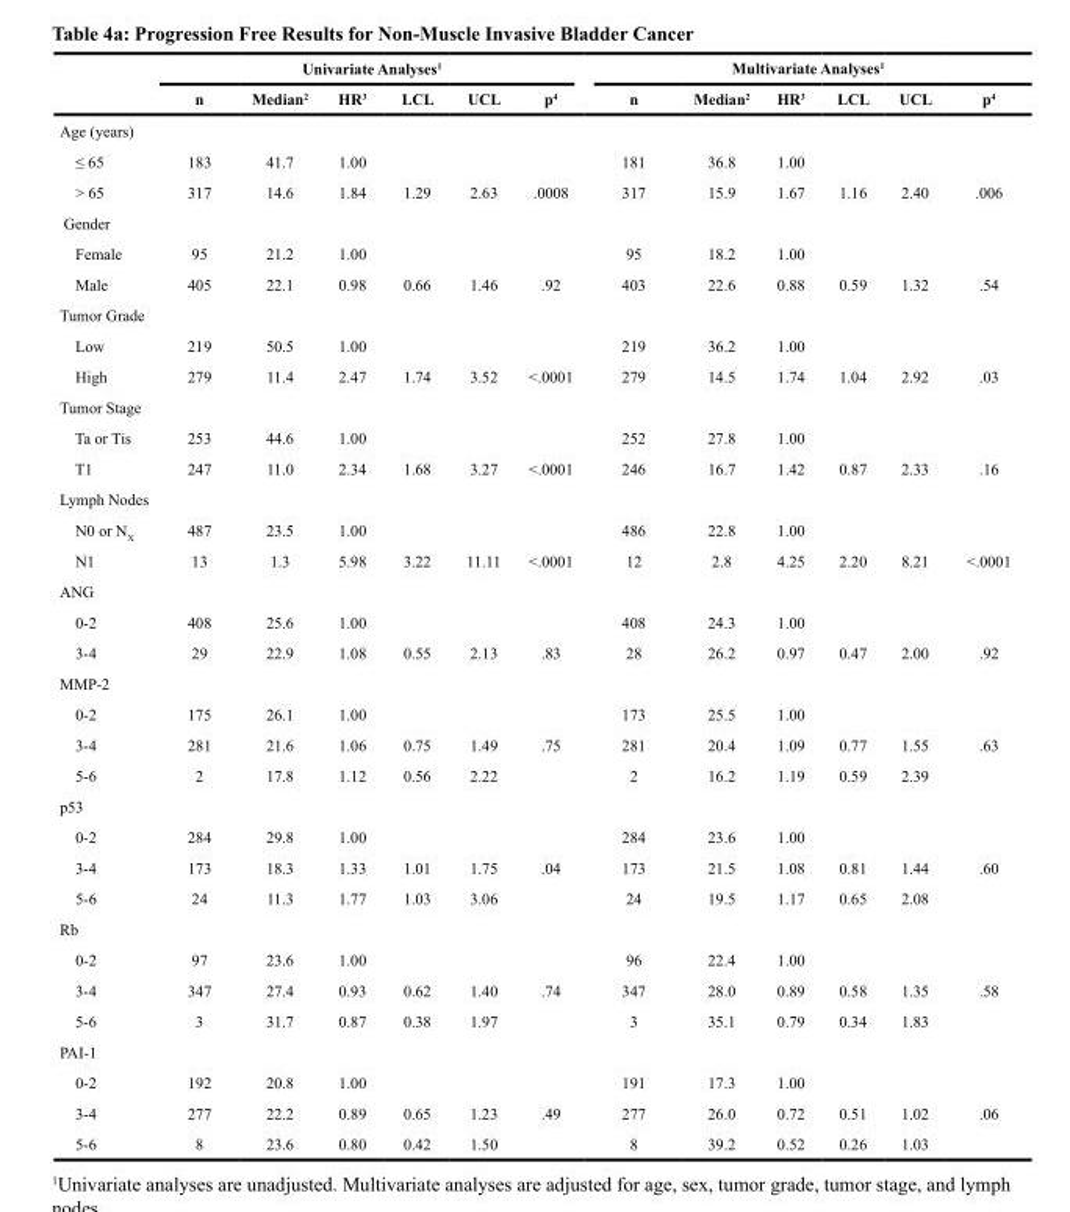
<table><thead><tr><td rowspan="2"></td><td colspan="6">Univariate Analyses<sup>1</sup></td><td colspan="6">Multivariate Analyses<sup>1</sup></td></tr><tr><td>n</td><td>Median<sup>2</sup></td><td>HR<sup>3</sup></td><td>LCL</td><td>UCL</td><td>p<sup>4</sup></td><td>n</td><td>Median<sup>2</sup></td><td>HR<sup>3</sup></td><td>LCL</td><td>UCL</td><td>p<sup>4</sup></td></tr></thead><tbody><tr><td colspan="13">Age (years)</td></tr><tr><td>≤ 65</td><td>183</td><td>41.7</td><td>1.00</td><td></td><td></td><td></td><td>181</td><td>36.8</td><td>1.00</td><td></td><td></td><td></td></tr><tr><td>&gt; 65</td><td>317</td><td>14.6</td><td>1.84</td><td>1.29</td><td>2.63</td><td>.0008</td><td>317</td><td>15.9</td><td>1.67</td><td>1.16</td><td>2.40</td><td>.006</td></tr><tr><td colspan="13">Gender</td></tr><tr><td>Female</td><td>95</td><td>21.2</td><td>1.00</td><td></td><td></td><td></td><td>95</td><td>18.2</td><td>1.00</td><td></td><td></td><td></td></tr><tr><td>Male</td><td>405</td><td>22.1</td><td>0.98</td><td>0.66</td><td>1.46</td><td>.92</td><td>403</td><td>22.6</td><td>0.88</td><td>0.59</td><td>1.32</td><td>.54</td></tr><tr><td colspan="13">Tumor Grade</td></tr><tr><td>Low</td><td>219</td><td>50.5</td><td>1.00</td><td></td><td></td><td></td><td>219</td><td>36.2</td><td>1.00</td><td></td><td></td><td></td></tr><tr><td>High</td><td>279</td><td>11.4</td><td>2.47</td><td>1.74</td><td>3.52</td><td>&lt;.0001</td><td>279</td><td>14.5</td><td>1.74</td><td>1.04</td><td>2.92</td><td>.03</td></tr><tr><td colspan="13">Tumor Stage</td></tr><tr><td>Ta or Tis</td><td>253</td><td>44.6</td><td>1.00</td><td></td><td></td><td></td><td>252</td><td>27.8</td><td>1.00</td><td></td><td></td><td></td></tr><tr><td>T1</td><td>247</td><td>11.0</td><td>2.34</td><td>1.68</td><td>3.27</td><td>&lt;.0001</td><td>246</td><td>16.7</td><td>1.42</td><td>0.87</td><td>2.33</td><td>.16</td></tr><tr><td colspan="13">Lymph Nodes</td></tr><tr><td>N0 or N<sub>X</sub></td><td>487</td><td>23.5</td><td>1.00</td><td></td><td></td><td></td><td>486</td><td>22.8</td><td>1.00</td><td></td><td></td><td></td></tr><tr><td>N1</td><td>13</td><td>1.3</td><td>5.98</td><td>3.22</td><td>11.11</td><td>&lt;.0001</td><td>12</td><td>2.8</td><td>4.25</td><td>2.20</td><td>8.21</td><td>&lt;.0001</td></tr><tr><td colspan="13">ANG</td></tr><tr><td>0-2</td><td>408</td><td>25.6</td><td>1.00</td><td></td><td></td><td></td><td>408</td><td>24.3</td><td>1.00</td><td></td><td></td><td></td></tr><tr><td>3-4</td><td>29</td><td>22.9</td><td>1.08</td><td>0.55</td><td>2.13</td><td>.83</td><td>28</td><td>26.2</td><td>0.97</td><td>0.47</td><td>2.00</td><td>.92</td></tr><tr><td colspan="13">MMP-2</td></tr><tr><td>0-2</td><td>175</td><td>26.1</td><td>1.00</td><td></td><td></td><td></td><td>173</td><td>25.5</td><td>1.00</td><td></td><td></td><td></td></tr><tr><td>3-4</td><td>281</td><td>21.6</td><td>1.06</td><td>0.75</td><td>1.49</td><td>.75</td><td>281</td><td>20.4</td><td>1.09</td><td>0.77</td><td>1.55</td><td>.63</td></tr><tr><td>5-6</td><td>2</td><td>17.8</td><td>1.12</td><td>0.56</td><td>2.22</td><td></td><td>2</td><td>16.2</td><td>1.19</td><td>0.59</td><td>2.39</td><td></td></tr><tr><td colspan="13">p53</td></tr><tr><td>0-2</td><td>284</td><td>29.8</td><td>1.00</td><td></td><td></td><td></td><td>284</td><td>23.6</td><td>1.00</td><td></td><td></td><td></td></tr><tr><td>3-4</td><td>173</td><td>18.3</td><td>1.33</td><td>1.01</td><td>1.75</td><td>.04</td><td>173</td><td>21.5</td><td>1.08</td><td>0.81</td><td>1.44</td><td>.60</td></tr><tr><td>5-6</td><td>24</td><td>11.3</td><td>1.77</td><td>1.03</td><td>3.06</td><td></td><td>24</td><td>19.5</td><td>1.17</td><td>0.65</td><td>2.08</td><td></td></tr><tr><td colspan="13">Rb</td></tr><tr><td>0-2</td><td>97</td><td>23.6</td><td>1.00</td><td></td><td></td><td></td><td>96</td><td>22.4</td><td>1.00</td><td></td><td></td><td></td></tr><tr><td>3-4</td><td>347</td><td>27.4</td><td>0.93</td><td>0.62</td><td>1.40</td><td>.74</td><td>347</td><td>28.0</td><td>0.89</td><td>0.58</td><td>1.35</td><td>.58</td></tr><tr><td>5-6</td><td>3</td><td>31.7</td><td>0.87</td><td>0.38</td><td>1.97</td><td></td><td>3</td><td>35.1</td><td>0.79</td><td>0.34</td><td>1.83</td><td></td></tr><tr><td colspan="13">PAI-1</td></tr><tr><td>0-2</td><td>192</td><td>20.8</td><td>1.00</td><td></td><td></td><td></td><td>191</td><td>17.3</td><td>1.00</td><td></td><td></td><td></td></tr><tr><td>3-4</td><td>277</td><td>22.2</td><td>0.89</td><td>0.65</td><td>1.23</td><td>.49</td><td>277</td><td>26.0</td><td>0.72</td><td>0.51</td><td>1.02</td><td>.06</td></tr><tr><td>5-6</td><td>8</td><td>23.6</td><td>0.80</td><td>0.42</td><td>1.50</td><td></td><td>8</td><td>39.2</td><td>0.52</td><td>0.26</td><td>1.03</td><td></td></tr></tbody></table>